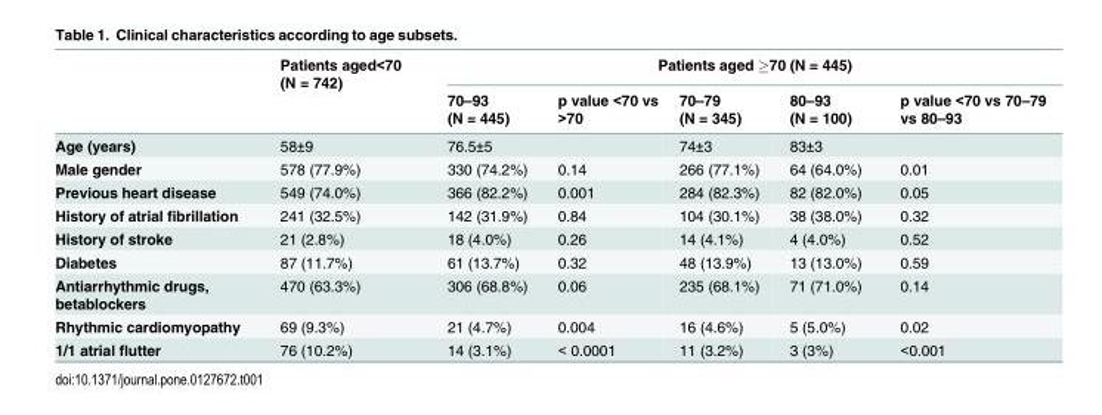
<table><thead><tr><td rowspan="2"></td><td rowspan="2">Patients aged&lt;70 (N = 742)</td><td colspan="5">Patients aged ≥70 (N = 445)</td></tr><tr><td>70–93 (N = 445)</td><td>p value &lt;70 vs &gt;70</td><td>70–79 (N = 345)</td><td>80–93 (N = 100)</td><td>p value &lt;70 vs 70–79 vs 80–93</td></tr></thead><tbody><tr><td>Age (years)</td><td>58±9</td><td>76.5±5</td><td></td><td>74±3</td><td>83±3</td><td></td></tr><tr><td>Male gender</td><td>578 (77.9%)</td><td>330 (74.2%)</td><td>0.14</td><td>266 (77.1%)</td><td>64 (64.0%)</td><td>0.01</td></tr><tr><td>Previous heart disease</td><td>549 (74.0%)</td><td>366 (82.2%)</td><td>0.001</td><td>284 (82.3%)</td><td>82 (82.0%)</td><td>0.05</td></tr><tr><td>History of atrial fibrillation</td><td>241 (32.5%)</td><td>142 (31.9%)</td><td>0.84</td><td>104 (30.1%)</td><td>38 (38.0%)</td><td>0.32</td></tr><tr><td>History of stroke</td><td>21 (2.8%)</td><td>18 (4.0%)</td><td>0.26</td><td>14 (4.1%)</td><td>4 (4.0%)</td><td>0.52</td></tr><tr><td>Diabetes</td><td>87 (11.7%)</td><td>61 (13.7%)</td><td>0.32</td><td>48 (13.9%)</td><td>13 (13.0%)</td><td>0.59</td></tr><tr><td>Antiarrhythmic drugs, betablockers</td><td>470 (63.3%)</td><td>306 (68.8%)</td><td>0.06</td><td>235 (68.1%)</td><td>71 (71.0%)</td><td>0.14</td></tr><tr><td>Rhythmic cardiomyopathy</td><td>69 (9.3%)</td><td>21 (4.7%)</td><td>0.004</td><td>16 (4.6%)</td><td>5 (5.0%)</td><td>0.02</td></tr><tr><td>1/1 atrial flutter</td><td>76 (10.2%)</td><td>14 (3.1%)</td><td>&lt; 0.0001</td><td>11 (3.2%)</td><td>3 (3%)</td><td>&lt;0.001</td></tr></tbody></table>